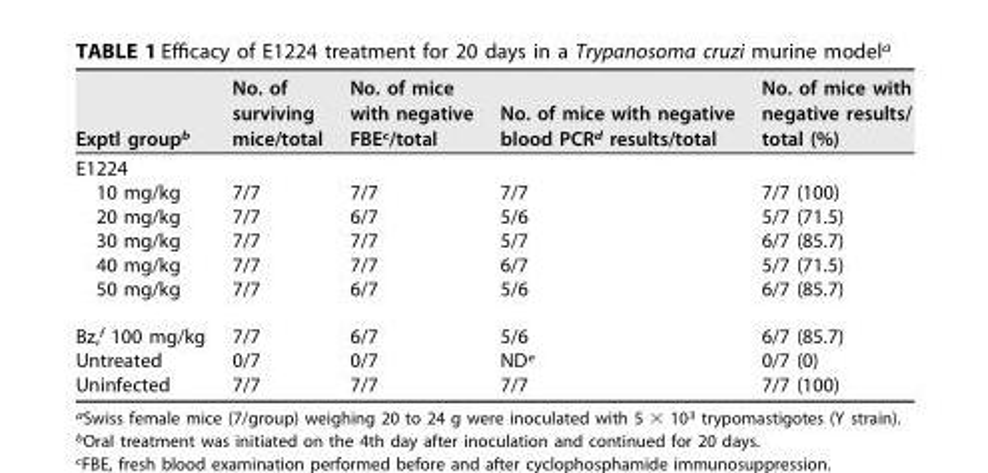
<table><thead><tr><td>Exptl group<sup>b</sup></td><td>No. of surviving mice/total</td><td>No. of mice with negative FBE<sup>c</sup>/total</td><td>No. of mice with negative blood PCR<sup>d</sup> results/total</td><td>No. of mice with negative results/ total (%)</td></tr></thead><tbody><tr><td colspan="5">E1224</td></tr><tr><td>10 mg/kg</td><td>7/7</td><td>7/7</td><td>7/7</td><td>7/7 (100)</td></tr><tr><td>20 mg/kg</td><td>7/7</td><td>6/7</td><td>5/6</td><td>5/7 (71.5)</td></tr><tr><td>30 mg/kg</td><td>7/7</td><td>7/7</td><td>5/7</td><td>6/7 (85.7)</td></tr><tr><td>40 mg/kg</td><td>7/7</td><td>7/7</td><td>6/7</td><td>5/7 (71.5)</td></tr><tr><td>50 mg/kg</td><td>7/7</td><td>6/7</td><td>5/6</td><td>6/7 (85.7)</td></tr><tr><td>Bz,<sup>f</sup> 100 mg/kg</td><td>7/7</td><td>6/7</td><td>5/6</td><td>6/7 (85.7)</td></tr><tr><td>Untreated</td><td>0/7</td><td>0/7</td><td>ND<sup>e</sup></td><td>0/7 (0)</td></tr><tr><td>Uninfected</td><td>7/7</td><td>7/7</td><td>7/7</td><td>7/7 (100)</td></tr></tbody></table>